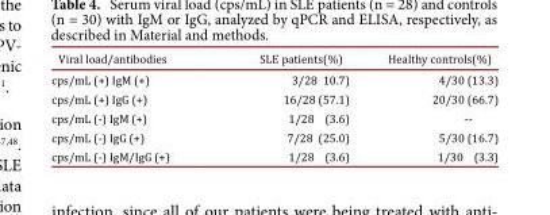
<table><thead><tr><td>Viral load/antibodies</td><td>SLE patients(%)</td><td>Healthy controls(%)</td></tr></thead><tbody><tr><td>cps/mL (+) IgM (+)</td><td>3/28 10.7)</td><td>4/30 (13.3)</td></tr><tr><td>cps/mL (+) IgG (+)</td><td>16/28 (57.1)</td><td>20/30 (66.7)</td></tr><tr><td>cps/mL (-) IgM (+)</td><td>1/28 (3.6)</td><td>--</td></tr><tr><td>cps/mL (-) IgG (+)</td><td>7/28 (25.0)</td><td>5/30 (16.7)</td></tr><tr><td>cps/mL (-) IgM/IgG (+)</td><td>1/28 (3.6)</td><td>1/30 (3.3)</td></tr></tbody></table>